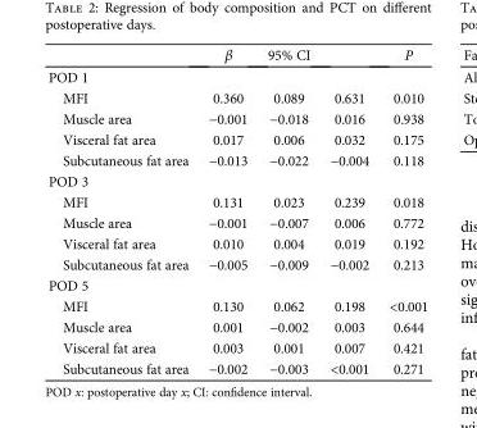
<table><thead><tr><td></td><td>β</td><td>95% CI</td><td></td><td>P</td></tr></thead><tbody><tr><td colspan="5">POD 1</td></tr><tr><td>MFI</td><td>0.360</td><td>0.089</td><td>0.631</td><td>0.010</td></tr><tr><td>Muscle area</td><td>−0.001</td><td>−0.018</td><td>0.016</td><td>0.938</td></tr><tr><td>Visceral fat area</td><td>0.017</td><td>0.006</td><td>0.032</td><td>0.175</td></tr><tr><td>Subcutaneous fat area</td><td>−0.013</td><td>−0.022</td><td>−0.004</td><td>0.118</td></tr><tr><td colspan="5">POD 3</td></tr><tr><td>MFI</td><td>0.131</td><td>0.023</td><td>0.239</td><td>0.018</td></tr><tr><td>Muscle area</td><td>−0.001</td><td>−0.007</td><td>0.006</td><td>0.772</td></tr><tr><td>Visceral fat area</td><td>0.010</td><td>0.004</td><td>0.019</td><td>0.192</td></tr><tr><td>Subcutaneous fat area</td><td>−0.005</td><td>−0.009</td><td>−0.002</td><td>0.213</td></tr><tr><td colspan="5">POD 5</td></tr><tr><td>MFI</td><td>0.130</td><td>0.062</td><td>0.198</td><td>&lt;0.001</td></tr><tr><td>Muscle area</td><td>0.001</td><td>−0.002</td><td>0.003</td><td>0.644</td></tr><tr><td>Visceral fat area</td><td>0.003</td><td>0.001</td><td>0.007</td><td>0.421</td></tr><tr><td>Subcutaneous fat area</td><td>−0.002</td><td>−0.003</td><td>&lt;0.001</td><td>0.271</td></tr></tbody></table>